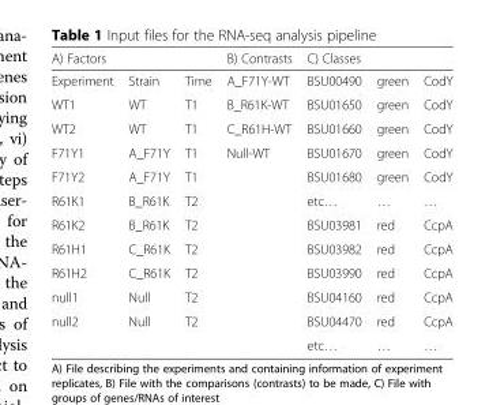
<table><thead><tr><td colspan="3">A) Factors</td><td rowspan="2">B) Contrasts A_F71Y-WT</td><td colspan="3">C) Classes</td></tr><tr><td>Experiment</td><td>Strain</td><td>Time</td><td>BSU00490</td><td>green</td><td>CodY</td></tr></thead><tbody><tr><td>WT1</td><td>WT</td><td>T1</td><td>B_R61K-WT</td><td>BSU01650</td><td>green</td><td>CodY</td></tr><tr><td>WT2</td><td>WT</td><td>T1</td><td>C_R61H-WT</td><td>BSU01660</td><td>green</td><td>CodY</td></tr><tr><td>F71Y1</td><td>A_F71Y</td><td>T1</td><td>Null-WT</td><td>BSU01670</td><td>green</td><td>CodY</td></tr><tr><td>F71Y2</td><td>A_F71Y</td><td>T1</td><td></td><td>BSU01680</td><td>green</td><td>CodY</td></tr><tr><td>R61K1</td><td>B_R61K</td><td>T2</td><td></td><td>etc…</td><td>…</td><td>…</td></tr><tr><td>R61K2</td><td>B_R61K</td><td>T2</td><td></td><td>BSU03981</td><td>red</td><td>CcpA</td></tr><tr><td>R61H1</td><td>C_R61K</td><td>T2</td><td></td><td>BSU03982</td><td>red</td><td>CcpA</td></tr><tr><td>R61H2</td><td>C_R61K</td><td>T2</td><td></td><td>BSU03990</td><td>red</td><td>CcpA</td></tr><tr><td>null1</td><td>Null</td><td>T2</td><td></td><td>BSU04160</td><td>red</td><td>CcpA</td></tr><tr><td rowspan="2">null2</td><td>Null</td><td>T2</td><td></td><td>BSU04470</td><td>red</td><td>CcpA</td></tr><tr><td></td><td></td><td></td><td>etc…</td><td>…</td><td>…</td></tr></tbody></table>